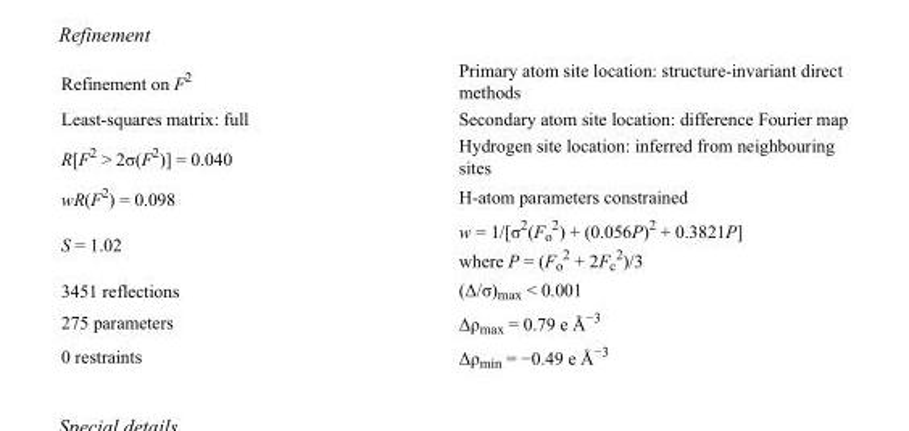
<table><tbody><tr><td>Refinement on F<sup>2</sup></td><td>Primary atom site location: structure-invariant direct methods</td></tr><tr><td>Least-squares matrix: full</td><td>Secondary atom site location: difference Fourier map</td></tr><tr><td>R[F<sup>2</sup> &gt; 2σ(F<sup>2</sup>)] = 0.040</td><td>Hydrogen site location: inferred from neighbouring sites</td></tr><tr><td>wR(F<sup>2</sup>) = 0.098</td><td>H-atom parameters constrained</td></tr><tr><td>S = 1.02</td><td>w = 1/[σ<sup>2</sup>(F<sub>o</sub> <sup>2</sup>) + (0.056P)<sup>2</sup> + 0.3821P] where P = (F<sub>o</sub> <sup>2</sup> + 2F<sub>c</sub> <sup>2</sup>)/3</td></tr><tr><td>3451 reflections</td><td>(Δ/σ)<sub>max</sub> &lt; 0.001</td></tr><tr><td>275 parameters</td><td>Δρ<sub>max</sub> = 0.79 e Å<sup>−3</sup></td></tr><tr><td>0 restraints</td><td>Δρ<sub>min</sub> = −0.49 e Å<sup>−3</sup></td></tr></tbody></table>